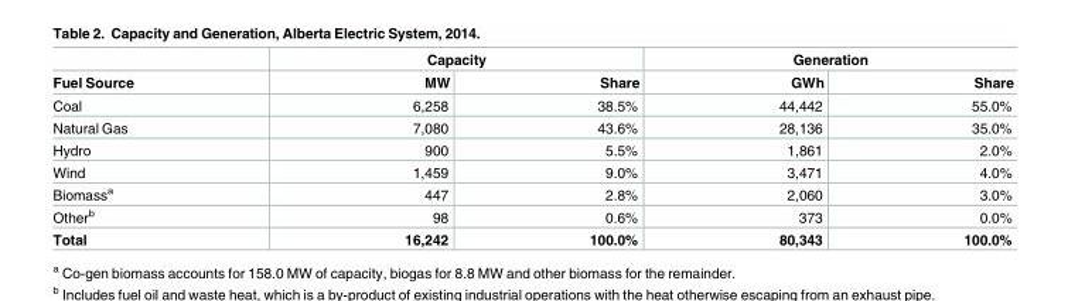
<table><thead><tr><td rowspan="2">Fuel Source</td><td colspan="2">Capacity</td><td colspan="2">Generation</td></tr><tr><td>MW</td><td>Share</td><td>GWh</td><td>Share</td></tr></thead><tbody><tr><td>Coal</td><td>6,258</td><td>38.5%</td><td>44,442</td><td>55.0%</td></tr><tr><td>Natural Gas</td><td>7,080</td><td>43.6%</td><td>28,136</td><td>35.0%</td></tr><tr><td>Hydro</td><td>900</td><td>5.5%</td><td>1,861</td><td>2.0%</td></tr><tr><td>Wind</td><td>1,459</td><td>9.0%</td><td>3,471</td><td>4.0%</td></tr><tr><td>Biomass<sup>a</sup></td><td>447</td><td>2.8%</td><td>2,060</td><td>3.0%</td></tr><tr><td>Other<sup>b</sup></td><td>98</td><td>0.6%</td><td>373</td><td>0.0%</td></tr><tr><td>Total</td><td>16,242</td><td>100.0%</td><td>80,343</td><td>100.0%</td></tr></tbody></table>